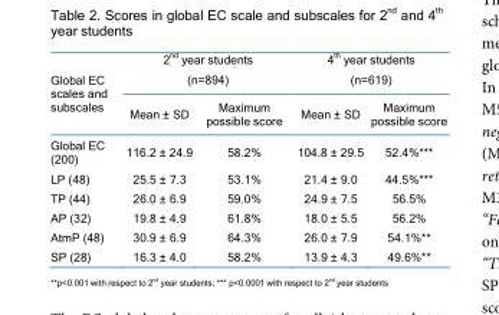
<table><thead><tr><td rowspan="2">Global EC scales and subscales</td><td colspan="2">2<sup>nd</sup> year students (n=894)</td><td colspan="2">4<sup>th</sup> year students (n=619)</td></tr><tr><td>Mean ± SD</td><td>Maximum possible score</td><td>Mean ± SD</td><td>Maximum possible score</td></tr></thead><tbody><tr><td>Global EC (200)</td><td>116.2 ± 24.9</td><td>58.2%</td><td>104.8 ± 29.5</td><td>52.4%***</td></tr><tr><td>LP (48)</td><td>25.5 ± 7.3</td><td>53.1%</td><td>21.4 ± 9.0</td><td>44.5%***</td></tr><tr><td>TP (44)</td><td>26.0 ± 6.9</td><td>59.0%</td><td>24.9 ± 7.5</td><td>56.5%</td></tr><tr><td>AP (32)</td><td>19.8 ± 4.9</td><td>61.8%</td><td>18.0 ± 5.5</td><td>56.2%</td></tr><tr><td>AtmP (48)</td><td>30.9 ± 6.9</td><td>64.3%</td><td>26.0 ± 7.9</td><td>54.1%**</td></tr><tr><td>SP (28)</td><td>16.3 ± 4.0</td><td>58.2%</td><td>13.9 ± 4.3</td><td>49.6%**</td></tr></tbody></table>